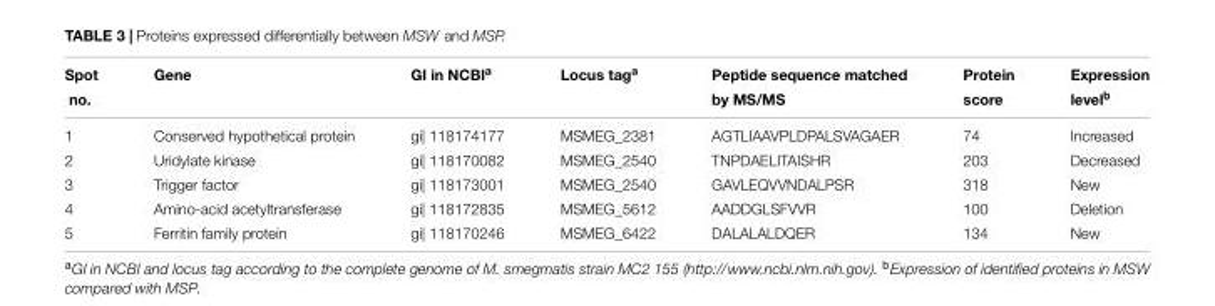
<table><thead><tr><td rowspan="2">Spot no.</td><td rowspan="2">Gene</td><td rowspan="2">GI in NCBI<sup>a</sup></td><td rowspan="2">Locus tag<sup>a</sup></td><td rowspan="2">Peptide sequence matched by MS/MS</td><td rowspan="2">Protein score</td><td rowspan="2">Expression level<sup>b</sup></td></tr><tr></tr></thead><tbody><tr><td>1</td><td>Conserved hypothetical protein</td><td>gi| 118174177</td><td>MSMEG_2381</td><td>AGTLIAAVPLDPALSVAGAER</td><td>74</td><td>Increased</td></tr><tr><td>2</td><td>Uridylate kinase</td><td>gi| 118170082</td><td>MSMEG_2540</td><td>TNPDAELITAISHR</td><td>203</td><td>Decreased</td></tr><tr><td>3</td><td>Trigger factor</td><td>gi| 118173001</td><td>MSMEG_2540</td><td>GAVLEQVVNDALPSR</td><td>318</td><td>New</td></tr><tr><td>4</td><td>Amino-acid acetyltransferase</td><td>gi| 118172835</td><td>MSMEG_5612</td><td>AADDGLSFVVR</td><td>100</td><td>Deletion</td></tr><tr><td>5</td><td>Ferritin family protein</td><td>gi| 118170246</td><td>MSMEG_6422</td><td>DALALALDQER</td><td>134</td><td>New</td></tr></tbody></table>